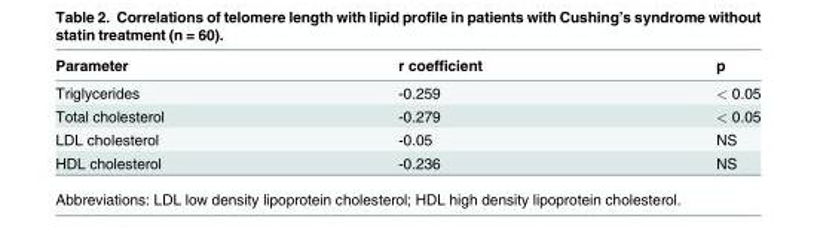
<table><thead><tr><td>Parameter</td><td>r coefficient</td><td>p</td></tr></thead><tbody><tr><td>Triglycerides</td><td>-0.259</td><td>&lt; 0.05</td></tr><tr><td>Total cholesterol</td><td>-0.279</td><td>&lt; 0.05</td></tr><tr><td>LDL cholesterol</td><td>-0.05</td><td>NS</td></tr><tr><td>HDL cholesterol</td><td>-0.236</td><td>NS</td></tr></tbody></table>